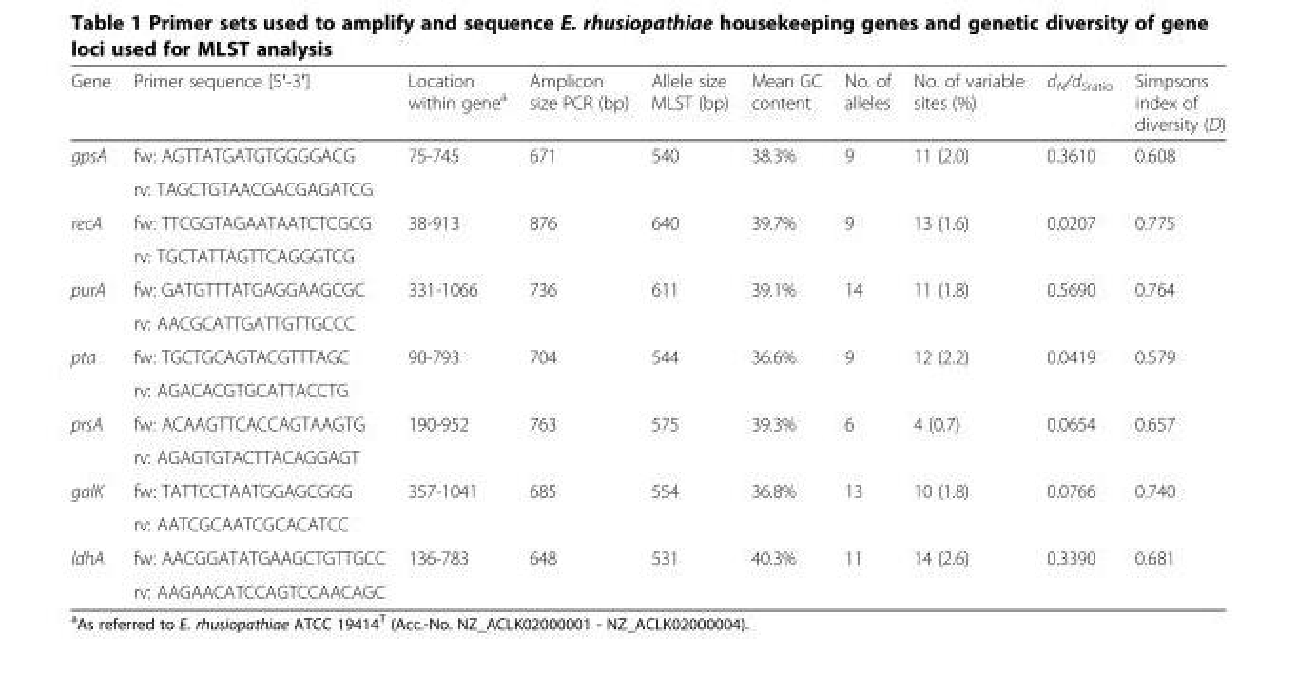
<table><thead><tr><td>Gene</td><td>Primer sequence [5′-3′]</td><td>Location within gene<sup>a</sup></td><td>Amplicon size PCR (bp)</td><td>Allele size MLST (bp)</td><td>Mean GC content</td><td>No. of alleles</td><td>No. of variable sites (%)</td><td>d<sub>N</sub>/d<sub>Sratio</sub></td><td>Simpsons index of diversity (D)</td></tr></thead><tbody><tr><td rowspan="2">gpsA</td><td>fw: AGTTATGATGTGGGGACG</td><td rowspan="2">75-745</td><td rowspan="2">671</td><td rowspan="2">540</td><td rowspan="2">38.3%</td><td rowspan="2">9</td><td rowspan="2">11 (2.0)</td><td rowspan="2">0.3610</td><td rowspan="2">0.608</td></tr><tr><td>rv: TAGCTGTAACGACGAGATCG</td></tr><tr><td rowspan="2">recA</td><td>fw: TTCGGTAGAATAATCTCGCG</td><td rowspan="2">38-913</td><td rowspan="2">876</td><td rowspan="2">640</td><td rowspan="2">39.7%</td><td rowspan="2">9</td><td rowspan="2">13 (1.6)</td><td rowspan="2">0.0207</td><td rowspan="2">0.775</td></tr><tr><td>rv: TGCTATTAGTTCAGGGTCG</td></tr><tr><td rowspan="2">purA</td><td>fw: GATGTTTATGAGGAAGCGC</td><td rowspan="2">331-1066</td><td rowspan="2">736</td><td rowspan="2">611</td><td rowspan="2">39.1%</td><td rowspan="2">14</td><td rowspan="2">11 (1.8)</td><td rowspan="2">0.5690</td><td rowspan="2">0.764</td></tr><tr><td>rv: AACGCATTGATTGTTGCCC</td></tr><tr><td rowspan="2">pta</td><td>fw: TGCTGCAGTACGTTTAGC</td><td rowspan="2">90-793</td><td rowspan="2">704</td><td rowspan="2">544</td><td rowspan="2">36.6%</td><td rowspan="2">9</td><td rowspan="2">12 (2.2)</td><td rowspan="2">0.0419</td><td rowspan="2">0.579</td></tr><tr><td>rv: AGACACGTGCATTACCTG</td></tr><tr><td rowspan="2">prsA</td><td>fw: ACAAGTTCACCAGTAAGTG</td><td rowspan="2">190-952</td><td rowspan="2">763</td><td rowspan="2">575</td><td rowspan="2">39.3%</td><td rowspan="2">6</td><td rowspan="2">4 (0.7)</td><td rowspan="2">0.0654</td><td rowspan="2">0.657</td></tr><tr><td>rv: AGAGTGTACTTACAGGAGT</td></tr><tr><td rowspan="2">galK</td><td>fw: TATTCCTAATGGAGCGGG</td><td rowspan="2">357-1041</td><td rowspan="2">685</td><td rowspan="2">554</td><td rowspan="2">36.8%</td><td rowspan="2">13</td><td rowspan="2">10 (1.8)</td><td rowspan="2">0.0766</td><td rowspan="2">0.740</td></tr><tr><td>rv: AATCGCAATCGCACATCC</td></tr><tr><td rowspan="2">ldhA</td><td>fw: AACGGATATGAAGCTGTTGCC</td><td rowspan="2">136-783</td><td rowspan="2">648</td><td rowspan="2">531</td><td rowspan="2">40.3%</td><td rowspan="2">11</td><td rowspan="2">14 (2.6)</td><td rowspan="2">0.3390</td><td rowspan="2">0.681</td></tr><tr><td>rv: AAGAACATCCAGTCCAACAGC</td></tr></tbody></table>